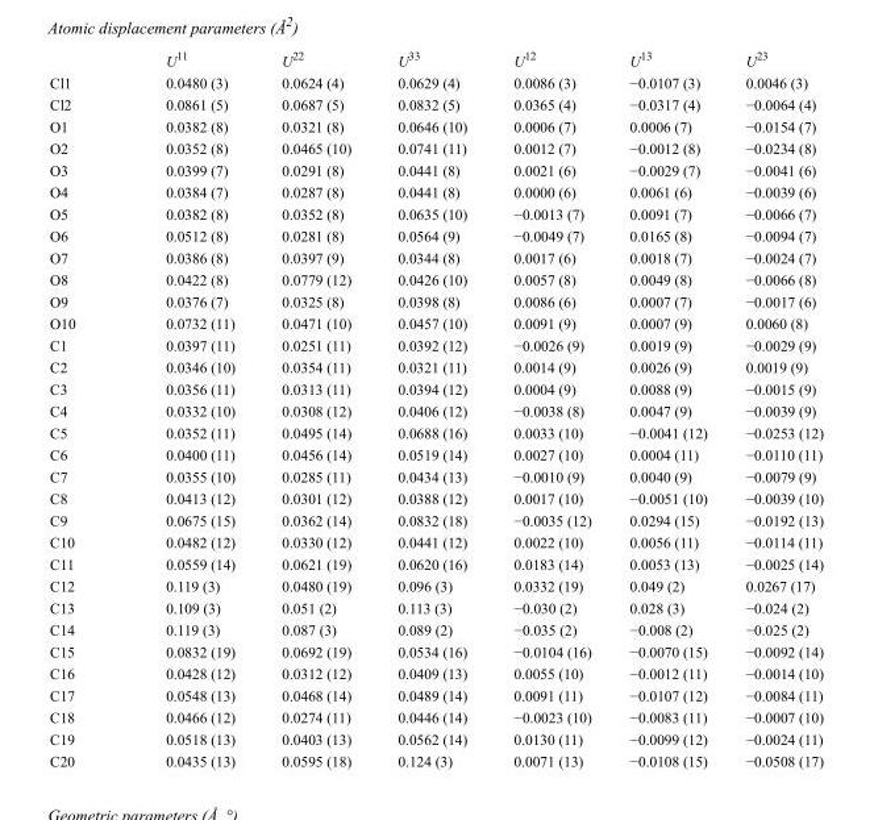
<table><thead><tr><td></td><td>U<sup>11</sup></td><td>U<sup>22</sup></td><td>U<sup>33</sup></td><td>U<sup>12</sup></td><td>U<sup>13</sup></td><td>U<sup>23</sup></td></tr></thead><tbody><tr><td>Cl1</td><td>0.0480 (3)</td><td>0.0624 (4)</td><td>0.0629 (4)</td><td>0.0086 (3)</td><td>−0.0107 (3)</td><td>0.0046 (3)</td></tr><tr><td>Cl2</td><td>0.0861 (5)</td><td>0.0687 (5)</td><td>0.0832 (5)</td><td>0.0365 (4)</td><td>−0.0317 (4)</td><td>−0.0064 (4)</td></tr><tr><td>O1</td><td>0.0382 (8)</td><td>0.0321 (8)</td><td>0.0646 (10)</td><td>0.0006 (7)</td><td>0.0006 (7)</td><td>−0.0154 (7)</td></tr><tr><td>O2</td><td>0.0352 (8)</td><td>0.0465 (10)</td><td>0.0741 (11)</td><td>0.0012 (7)</td><td>−0.0012 (8)</td><td>−0.0234 (8)</td></tr><tr><td>O3</td><td>0.0399 (7)</td><td>0.0291 (8)</td><td>0.0441 (8)</td><td>0.0021 (6)</td><td>−0.0029 (7)</td><td>−0.0041 (6)</td></tr><tr><td>O4</td><td>0.0384 (7)</td><td>0.0287 (8)</td><td>0.0441 (8)</td><td>0.0000 (6)</td><td>0.0061 (6)</td><td>−0.0039 (6)</td></tr><tr><td>O5</td><td>0.0382 (8)</td><td>0.0352 (8)</td><td>0.0635 (10)</td><td>−0.0013 (7)</td><td>0.0091 (7)</td><td>−0.0066 (7)</td></tr><tr><td>O6</td><td>0.0512 (8)</td><td>0.0281 (8)</td><td>0.0564 (9)</td><td>−0.0049 (7)</td><td>0.0165 (8)</td><td>−0.0094 (7)</td></tr><tr><td>O7</td><td>0.0386 (8)</td><td>0.0397 (9)</td><td>0.0344 (8)</td><td>0.0017 (6)</td><td>0.0018 (7)</td><td>−0.0024 (7)</td></tr><tr><td>O8</td><td>0.0422 (8)</td><td>0.0779 (12)</td><td>0.0426 (10)</td><td>0.0057 (8)</td><td>0.0049 (8)</td><td>−0.0066 (8)</td></tr><tr><td>O9</td><td>0.0376 (7)</td><td>0.0325 (8)</td><td>0.0398 (8)</td><td>0.0086 (6)</td><td>0.0007 (7)</td><td>−0.0017 (6)</td></tr><tr><td>O10</td><td>0.0732 (11)</td><td>0.0471 (10)</td><td>0.0457 (10)</td><td>0.0091 (9)</td><td>0.0007 (9)</td><td>0.0060 (8)</td></tr><tr><td>C1</td><td>0.0397 (11)</td><td>0.0251 (11)</td><td>0.0392 (12)</td><td>−0.0026 (9)</td><td>0.0019 (9)</td><td>−0.0029 (9)</td></tr><tr><td>C2</td><td>0.0346 (10)</td><td>0.0354 (11)</td><td>0.0321 (11)</td><td>0.0014 (9)</td><td>0.0026 (9)</td><td>0.0019 (9)</td></tr><tr><td>C3</td><td>0.0356 (11)</td><td>0.0313 (11)</td><td>0.0394 (12)</td><td>0.0004 (9)</td><td>0.0088 (9)</td><td>−0.0015 (9)</td></tr><tr><td>C4</td><td>0.0332 (10)</td><td>0.0308 (12)</td><td>0.0406 (12)</td><td>−0.0038 (8)</td><td>0.0047 (9)</td><td>−0.0039 (9)</td></tr><tr><td>C5</td><td>0.0352 (11)</td><td>0.0495 (14)</td><td>0.0688 (16)</td><td>0.0033 (10)</td><td>−0.0041 (12)</td><td>−0.0253 (12)</td></tr><tr><td>C6</td><td>0.0400 (11)</td><td>0.0456 (14)</td><td>0.0519 (14)</td><td>0.0027 (10)</td><td>0.0004 (11)</td><td>−0.0110 (11)</td></tr><tr><td>C7</td><td>0.0355 (10)</td><td>0.0285 (11)</td><td>0.0434 (13)</td><td>−0.0010 (9)</td><td>0.0040 (9)</td><td>−0.0079 (9)</td></tr><tr><td>C8</td><td>0.0413 (12)</td><td>0.0301 (12)</td><td>0.0388 (12)</td><td>0.0017 (10)</td><td>−0.0051 (10)</td><td>−0.0039 (10)</td></tr><tr><td>C9</td><td>0.0675 (15)</td><td>0.0362 (14)</td><td>0.0832 (18)</td><td>−0.0035 (12)</td><td>0.0294 (15)</td><td>−0.0192 (13)</td></tr><tr><td>C10</td><td>0.0482 (12)</td><td>0.0330 (12)</td><td>0.0441 (12)</td><td>0.0022 (10)</td><td>0.0056 (11)</td><td>−0.0114 (11)</td></tr><tr><td>C11</td><td>0.0559 (14)</td><td>0.0621 (19)</td><td>0.0620 (16)</td><td>0.0183 (14)</td><td>0.0053 (13)</td><td>−0.0025 (14)</td></tr><tr><td>C12</td><td>0.119 (3)</td><td>0.0480 (19)</td><td>0.096 (3)</td><td>0.0332 (19)</td><td>0.049 (2)</td><td>0.0267 (17)</td></tr><tr><td>C13</td><td>0.109 (3)</td><td>0.051 (2)</td><td>0.113 (3)</td><td>−0.030 (2)</td><td>0.028 (3)</td><td>−0.024 (2)</td></tr><tr><td>C14</td><td>0.119 (3)</td><td>0.087 (3)</td><td>0.089 (2)</td><td>−0.035 (2)</td><td>−0.008 (2)</td><td>−0.025 (2)</td></tr><tr><td>C15</td><td>0.0832 (19)</td><td>0.0692 (19)</td><td>0.0534 (16)</td><td>−0.0104 (16)</td><td>−0.0070 (15)</td><td>−0.0092 (14)</td></tr><tr><td>C16</td><td>0.0428 (12)</td><td>0.0312 (12)</td><td>0.0409 (13)</td><td>0.0055 (10)</td><td>−0.0012 (11)</td><td>−0.0014 (10)</td></tr><tr><td>C17</td><td>0.0548 (13)</td><td>0.0468 (14)</td><td>0.0489 (14)</td><td>0.0091 (11)</td><td>−0.0107 (12)</td><td>−0.0084 (11)</td></tr><tr><td>C18</td><td>0.0466 (12)</td><td>0.0274 (11)</td><td>0.0446 (14)</td><td>−0.0023 (10)</td><td>−0.0083 (11)</td><td>−0.0007 (10)</td></tr><tr><td>C19</td><td>0.0518 (13)</td><td>0.0403 (13)</td><td>0.0562 (14)</td><td>0.0130 (11)</td><td>−0.0099 (12)</td><td>−0.0024 (11)</td></tr><tr><td>C20</td><td>0.0435 (13)</td><td>0.0595 (18)</td><td>0.124 (3)</td><td>0.0071 (13)</td><td>−0.0108 (15)</td><td>−0.0508 (17)</td></tr></tbody></table>